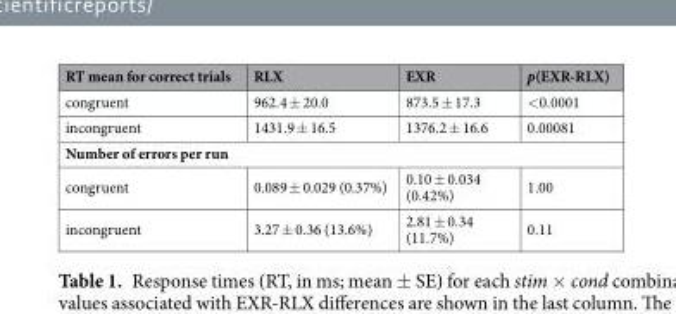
<table><thead><tr><td>RT mean for correct trials</td><td>RLX</td><td>EXR</td><td>p(EXR-RLX)</td></tr></thead><tbody><tr><td>congruent</td><td>962.4 ± 20.0</td><td>873.5 ± 17.3</td><td>&lt;0.0001</td></tr><tr><td>incongruent</td><td>1431.9 ± 16.5</td><td>1376.2 ± 16.6</td><td>0.00081</td></tr><tr><td colspan="4">Number of errors per run</td></tr><tr><td>congruent</td><td>0.089 ± 0.029 (0.37%)</td><td>0.10 ± 0.034 (0.42%)</td><td>1.00</td></tr><tr><td>incongruent</td><td>3.27 ± 0.36 (13.6%)</td><td>2.81 ± 0.34 (11.7%)</td><td>0.11</td></tr></tbody></table>